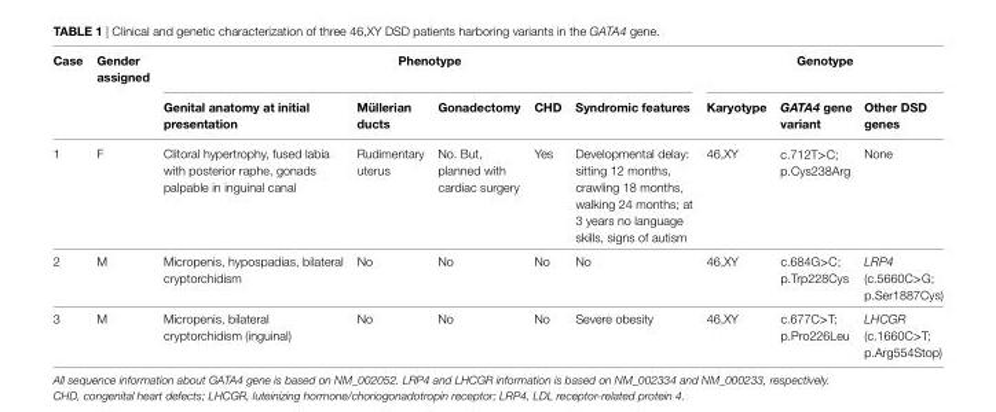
<table><thead><tr><td rowspan="2">case</td><td rowspan="2">gender assigned</td><td colspan="5">Phenotype</td><td colspan="3">genotype</td></tr><tr><td>genital anatomy at initial presentation</td><td>Müllerian ducts</td><td>gonadectomy</td><td>chD</td><td>syndromic features</td><td>Karyotype</td><td>GATA4 gene variant</td><td>Other DsD genes</td></tr></thead><tbody><tr><td>1</td><td>F</td><td>Clitoral hypertrophy, fused labia with posterior raphe, gonads palpable in inguinal canal</td><td>Rudimentary uterus</td><td>No. But, planned with cardiac surgery</td><td>Yes</td><td>Developmental delay: sitting 12 months, crawling 18 months, walking 24 months; at 3 years no language skills, signs of autism</td><td>46,XY</td><td>c.712T&gt;C; p.Cys238Arg</td><td>None</td></tr><tr><td>2</td><td>M</td><td>Micropenis, hypospadias, bilateral cryptorchidism</td><td>No</td><td>No</td><td>No</td><td>No</td><td>46,XY</td><td>c.684G&gt;C; p.Trp228Cys</td><td>LRP4 (c.5660C&gt;G; p.Ser1887Cys)</td></tr><tr><td>3</td><td>M</td><td>Micropenis, bilateral cryptorchidism (inguinal)</td><td>No</td><td>No</td><td>No</td><td>Severe obesity</td><td>46,XY</td><td>c.677C&gt;T; p.Pro226Leu</td><td>LHCGR (c.1660C&gt;T; p.Arg554Stop)</td></tr></tbody></table>